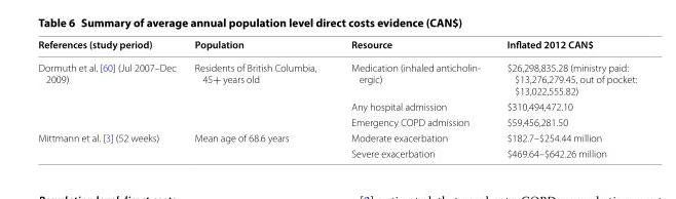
<table><thead><tr><td>References (study period)</td><td>Population</td><td>Resource</td><td>Inflated 2012 CAN$</td></tr></thead><tbody><tr><td rowspan="3">Dormuth et al. [60] (Jul 2007–Dec 2009)</td><td rowspan="3">Residents of British Columbia, 45+ years old</td><td>Medication (inhaled anticholin‑ ergic)</td><td>$26,298,835.28 (ministry paid: $13,276,279.45, out of pocket: $13,022,555.82)</td></tr><tr><td>Any hospital admission</td><td>$310,494,472.10</td></tr><tr><td>Emergency COPD admission</td><td>$59,456,281.50</td></tr><tr><td rowspan="2">Mittmann et al. [3] (52 weeks)</td><td rowspan="2">Mean age of 68.6 years</td><td>Moderate exacerbation</td><td>$182.7–$254.44 million</td></tr><tr><td>Severe exacerbation</td><td>$469.64–$642.26 million</td></tr></tbody></table>